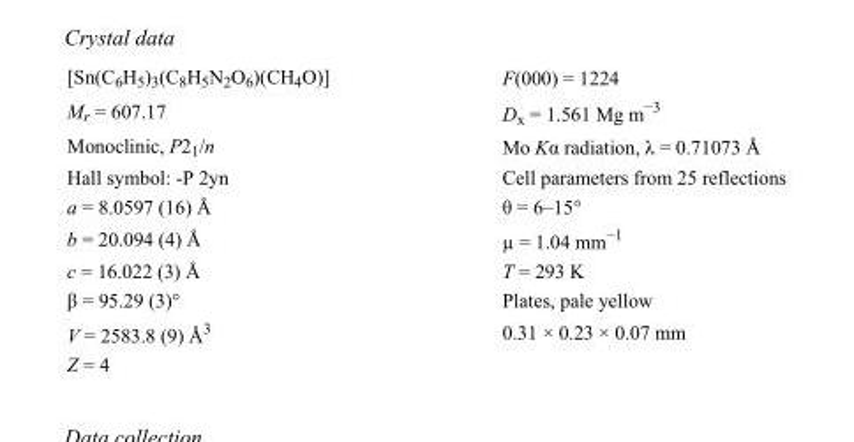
<table><tbody><tr><td>[Sn(C<sub>6</sub>H<sub>5</sub>)<sub>3</sub>(C<sub>8</sub>H<sub>5</sub>N<sub>2</sub>O<sub>6</sub>)(CH<sub>4</sub>O)]</td><td>F(000) = 1224</td></tr><tr><td>M<sub>r</sub> = 607.17</td><td>D<sub>x</sub> = 1.561 Mg m<sup>−3</sup></td></tr><tr><td>Monoclinic, P2<sub>1</sub>/n</td><td>Mo Kα radiation, λ = 0.71073 Å</td></tr><tr><td>Hall symbol: -P 2yn</td><td>Cell parameters from 25 reflections</td></tr><tr><td>a = 8.0597 (16) Å</td><td>θ = 6–15°</td></tr><tr><td>b = 20.094 (4) Å</td><td>µ = 1.04 mm<sup>−1</sup></td></tr><tr><td>c = 16.022 (3) Å</td><td>T = 293 K</td></tr><tr><td>β = 95.29 (3)°</td><td>Plates, pale yellow</td></tr><tr><td>V = 2583.8 (9) Å<sup>3</sup></td><td>0.31 × 0.23 × 0.07 mm</td></tr><tr><td>Z = 4</td><td></td></tr></tbody></table>